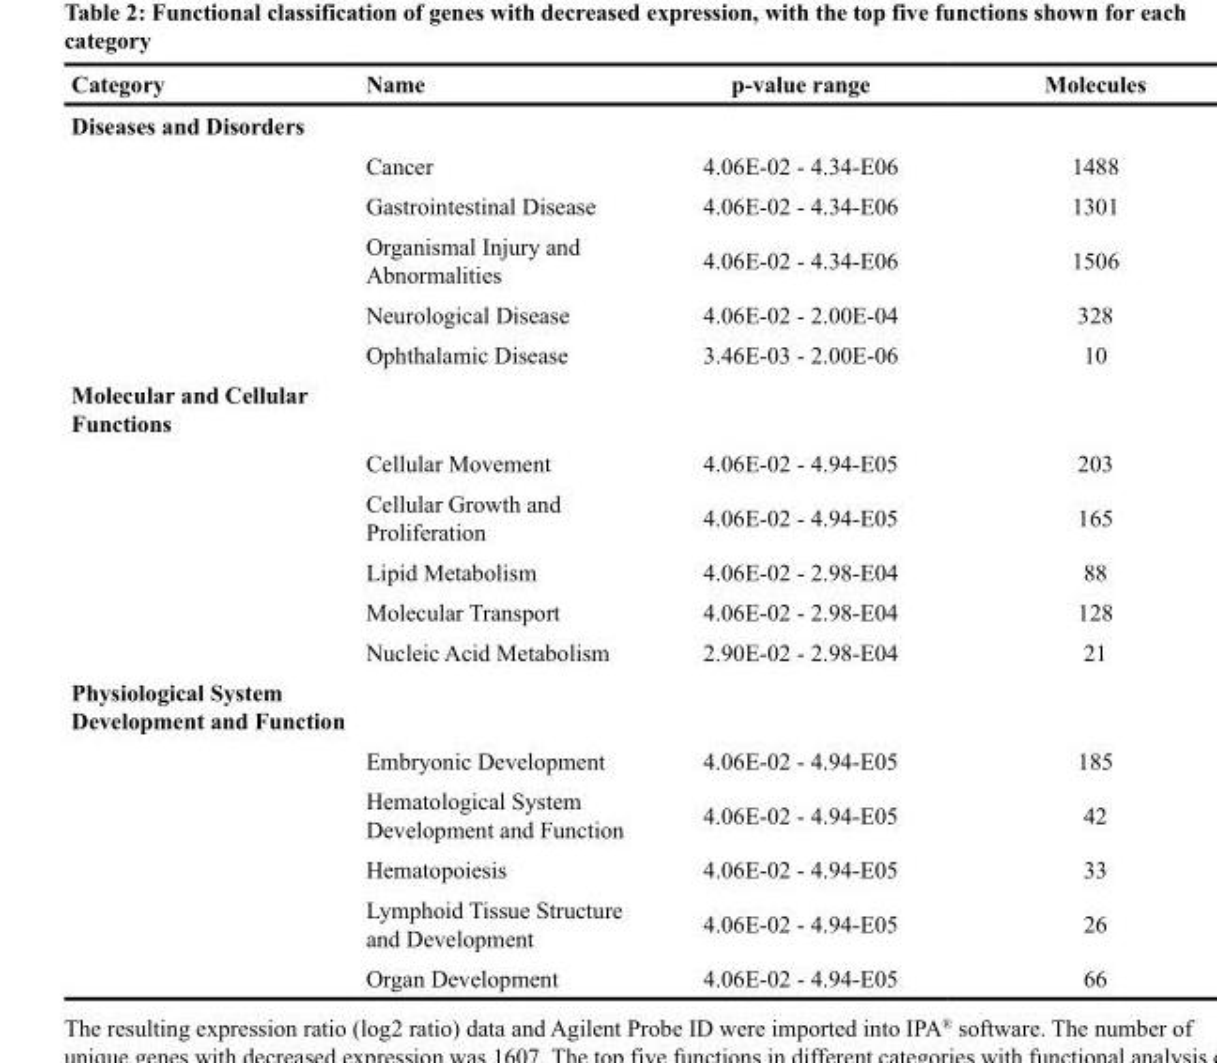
<table><thead><tr><td>Category</td><td>Name</td><td>p-value range</td><td>Molecules</td></tr></thead><tbody><tr><td colspan="4">Diseases and Disorders</td></tr><tr><td></td><td>Cancer</td><td>4.06E-02 - 4.34-E06</td><td>1488</td></tr><tr><td></td><td>Gastrointestinal Disease</td><td>4.06E-02 - 4.34-E06</td><td>1301</td></tr><tr><td></td><td>Organismal Injury and Abnormalities</td><td>4.06E-02 - 4.34-E06</td><td>1506</td></tr><tr><td></td><td>Neurological Disease</td><td>4.06E-02 - 2.00E-04</td><td>328</td></tr><tr><td></td><td>Ophthalamic Disease</td><td>3.46E-03 - 2.00E-06</td><td>10</td></tr><tr><td colspan="4">Molecular and Cellular Functions</td></tr><tr><td></td><td>Cellular Movement</td><td>4.06E-02 - 4.94-E05</td><td>203</td></tr><tr><td></td><td>Cellular Growth and Proliferation</td><td>4.06E-02 - 4.94-E05</td><td>165</td></tr><tr><td></td><td>Lipid Metabolism</td><td>4.06E-02 - 2.98-E04</td><td>88</td></tr><tr><td></td><td>Molecular Transport</td><td>4.06E-02 - 2.98-E04</td><td>128</td></tr><tr><td></td><td>Nucleic Acid Metabolism</td><td>2.90E-02 - 2.98-E04</td><td>21</td></tr><tr><td colspan="4">Physiological System Development and Function</td></tr><tr><td></td><td>Embryonic Development</td><td>4.06E-02 - 4.94-E05</td><td>185</td></tr><tr><td></td><td>Hematological System Development and Function</td><td>4.06E-02 - 4.94-E05</td><td>42</td></tr><tr><td></td><td>Hematopoiesis</td><td>4.06E-02 - 4.94-E05</td><td>33</td></tr><tr><td></td><td>Lymphoid Tissue Structure and Development</td><td>4.06E-02 - 4.94-E05</td><td>26</td></tr><tr><td></td><td>Organ Development</td><td>4.06E-02 - 4.94-E05</td><td>66</td></tr></tbody></table>